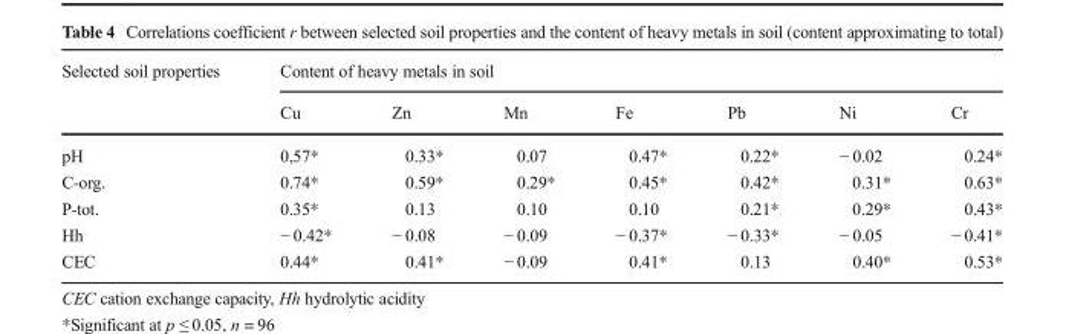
<table><thead><tr><td rowspan="2">Selected soil properties</td><td colspan="7">Content of heavy metals in soil</td></tr><tr><td>Cu</td><td>Zn</td><td>Mn</td><td>Fe</td><td>Pb</td><td>Ni</td><td>Cr</td></tr></thead><tbody><tr><td>pH</td><td>0,57*</td><td>0.33*</td><td>0.07</td><td>0.47*</td><td>0.22*</td><td>− 0.02</td><td>0.24*</td></tr><tr><td>C-org.</td><td>0.74*</td><td>0.59*</td><td>0.29*</td><td>0.45*</td><td>0.42*</td><td>0.31*</td><td>0.63*</td></tr><tr><td>P-tot.</td><td>0.35*</td><td>0.13</td><td>0.10</td><td>0.10</td><td>0.21*</td><td>0.29*</td><td>0.43*</td></tr><tr><td>Hh</td><td>− 0.42*</td><td>− 0.08</td><td>− 0.09</td><td>− 0.37*</td><td>− 0.33*</td><td>− 0.05</td><td>− 0.41*</td></tr><tr><td>CEC</td><td>0.44*</td><td>0.41*</td><td>− 0.09</td><td>0.41*</td><td>0.13</td><td>0.40*</td><td>0.53*</td></tr></tbody></table>